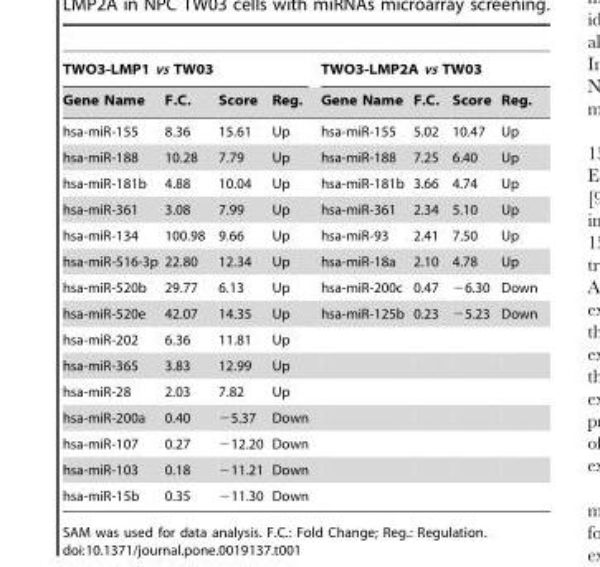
<table><thead><tr><td colspan="4">TWO3-LMP1 vs TW03</td><td colspan="4">TWO3-LMP2A vs TW03</td></tr><tr><td>Gene Name</td><td>F.C.</td><td>Score</td><td>Reg.</td><td>Gene Name</td><td>F.C.</td><td>Score</td><td>Reg.</td></tr></thead><tbody><tr><td>hsa-miR-155</td><td>8.36</td><td>15.61</td><td>Up</td><td>hsa-miR-155</td><td>5.02</td><td>10.47</td><td>Up</td></tr><tr><td>hsa-miR-188</td><td>10.28</td><td>7.79</td><td>Up</td><td>hsa-miR-188</td><td>7.25</td><td>6.40</td><td>Up</td></tr><tr><td>hsa-miR-181b</td><td>4.88</td><td>10.04</td><td>Up</td><td>hsa-miR-181b</td><td>3.66</td><td>4.74</td><td>Up</td></tr><tr><td>hsa-miR-361</td><td>3.08</td><td>7.99</td><td>Up</td><td>hsa-miR-361</td><td>2.34</td><td>5.10</td><td>Up</td></tr><tr><td>hsa-miR-134</td><td>100.98</td><td>9.66</td><td>Up</td><td>hsa-miR-93</td><td>2.41</td><td>7.50</td><td>Up</td></tr><tr><td>hsa-miR-516-3p</td><td>22.80</td><td>12.34</td><td>Up</td><td>hsa-miR-18a</td><td>2.10</td><td>4.78</td><td>Up</td></tr><tr><td>hsa-miR-520b</td><td>29.77</td><td>6.13</td><td>Up</td><td>hsa-miR-200c</td><td>0.47</td><td>−6.30</td><td>Down</td></tr><tr><td>hsa-miR-520e</td><td>42.07</td><td>14.35</td><td>Up</td><td>hsa-miR-125b</td><td>0.23</td><td>−5.23</td><td>Down</td></tr><tr><td>hsa-miR-202</td><td>6.36</td><td>11.81</td><td>Up</td><td></td><td></td><td></td><td></td></tr><tr><td>hsa-miR-365</td><td>3.83</td><td>12.99</td><td>Up</td><td></td><td></td><td></td><td></td></tr><tr><td>hsa-miR-28</td><td>2.03</td><td>7.82</td><td>Up</td><td></td><td></td><td></td><td></td></tr><tr><td>hsa-miR-200a</td><td>0.40</td><td>−5.37</td><td>Down</td><td></td><td></td><td></td><td></td></tr><tr><td>hsa-miR-107</td><td>0.27</td><td>−12.20</td><td>Down</td><td></td><td></td><td></td><td></td></tr><tr><td>hsa-miR-103</td><td>0.18</td><td>−11.21</td><td>Down</td><td></td><td></td><td></td><td></td></tr><tr><td>hsa-miR-15b</td><td>0.35</td><td>−11.30</td><td>Down</td><td></td><td></td><td></td><td></td></tr></tbody></table>